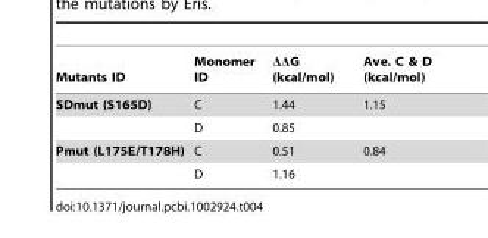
<table><thead><tr><td>Mutants ID</td><td>Monomer ID</td><td>ΔΔG (kcal/mol)</td><td>Ave. C &amp; D (kcal/mol)</td></tr></thead><tbody><tr><td rowspan="2">SDmut (S165D)</td><td>C</td><td>1.44</td><td>1.15</td></tr><tr><td>D</td><td>0.85</td><td></td></tr><tr><td rowspan="2">Pmut (L175E/T178H)</td><td>C</td><td>0.51</td><td>0.84</td></tr><tr><td>D</td><td>1.16</td><td></td></tr></tbody></table>